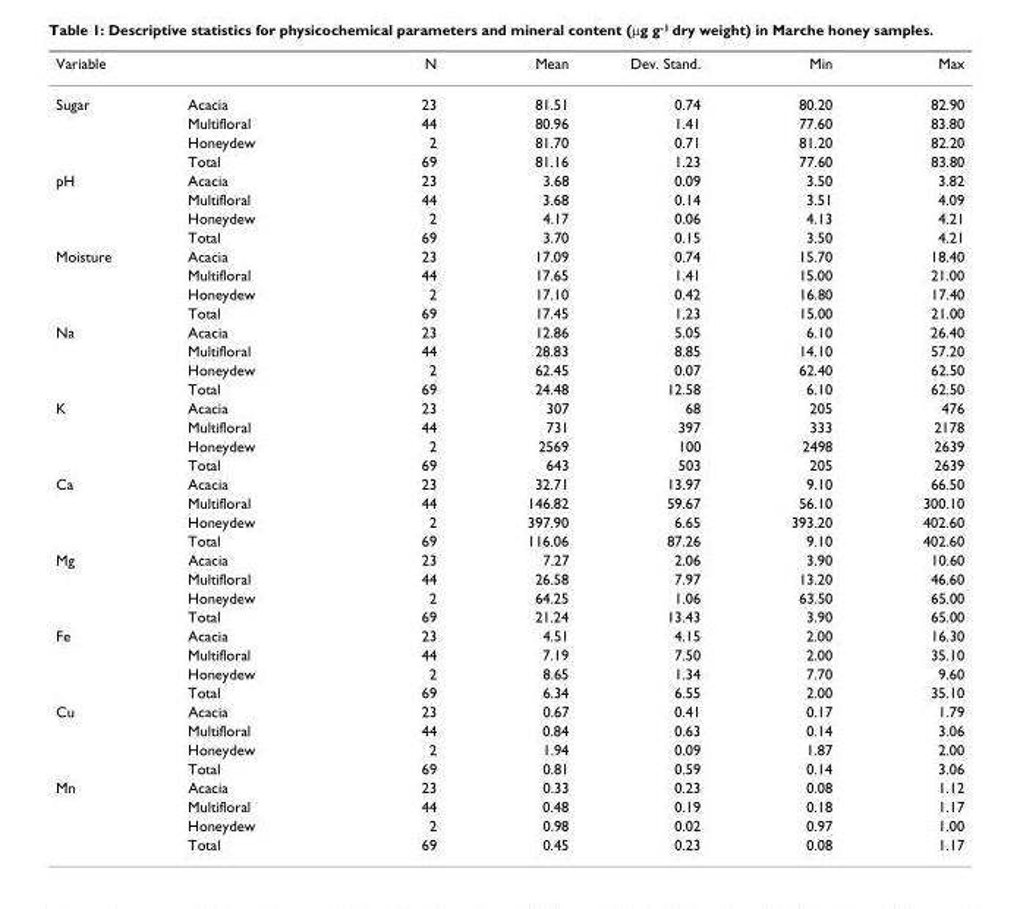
<table><thead><tr><td>Variable</td><td></td><td>N</td><td>Mean</td><td>Dev. Stand.</td><td>Min</td><td>Max</td></tr></thead><tbody><tr><td rowspan="4">Sugar</td><td>Acacia</td><td>23</td><td>81.51</td><td>0.74</td><td>80.20</td><td>82.90</td></tr><tr><td>Multifloral</td><td>44</td><td>80.96</td><td>1.41</td><td>77.60</td><td>83.80</td></tr><tr><td>Honeydew</td><td>2</td><td>81.70</td><td>0.71</td><td>81.20</td><td>82.20</td></tr><tr><td>Total</td><td>69</td><td>81.16</td><td>1.23</td><td>77.60</td><td>83.80</td></tr><tr><td rowspan="4">pH</td><td>Acacia</td><td>23</td><td>3.68</td><td>0.09</td><td>3.50</td><td>3.82</td></tr><tr><td>Multifloral</td><td>44</td><td>3.68</td><td>0.14</td><td>3.51</td><td>4.09</td></tr><tr><td>Honeydew</td><td>2</td><td>4.17</td><td>0.06</td><td>4.13</td><td>4.21</td></tr><tr><td>Total</td><td>69</td><td>3.70</td><td>0.15</td><td>3.50</td><td>4.21</td></tr><tr><td rowspan="4">Moisture</td><td>Acacia</td><td>23</td><td>17.09</td><td>0.74</td><td>15.70</td><td>18.40</td></tr><tr><td>Multifloral</td><td>44</td><td>17.65</td><td>1.41</td><td>15.00</td><td>21.00</td></tr><tr><td>Honeydew</td><td>2</td><td>17.10</td><td>0.42</td><td>16.80</td><td>17.40</td></tr><tr><td>Total</td><td>69</td><td>17.45</td><td>1.23</td><td>15.00</td><td>21.00</td></tr><tr><td rowspan="4">Na</td><td>Acacia</td><td>23</td><td>12.86</td><td>5.05</td><td>6.10</td><td>26.40</td></tr><tr><td>Multifloral</td><td>44</td><td>28.83</td><td>8.85</td><td>14.10</td><td>57.20</td></tr><tr><td>Honeydew</td><td>2</td><td>62.45</td><td>0.07</td><td>62.40</td><td>62.50</td></tr><tr><td>Total</td><td>69</td><td>24.48</td><td>12.58</td><td>6.10</td><td>62.50</td></tr><tr><td rowspan="4">K</td><td>Acacia</td><td>23</td><td>307</td><td>68</td><td>205</td><td>476</td></tr><tr><td>Multifloral</td><td>44</td><td>731</td><td>397</td><td>333</td><td>2178</td></tr><tr><td>Honeydew</td><td>2</td><td>2569</td><td>100</td><td>2498</td><td>2639</td></tr><tr><td>Total</td><td>69</td><td>643</td><td>503</td><td>205</td><td>2639</td></tr><tr><td rowspan="4">Ca</td><td>Acacia</td><td>23</td><td>32.71</td><td>13.97</td><td>9.10</td><td>66.50</td></tr><tr><td>Multifloral</td><td>44</td><td>146.82</td><td>59.67</td><td>56.10</td><td>300.10</td></tr><tr><td>Honeydew</td><td>2</td><td>397.90</td><td>6.65</td><td>393.20</td><td>402.60</td></tr><tr><td>Total</td><td>69</td><td>116.06</td><td>87.26</td><td>9.10</td><td>402.60</td></tr><tr><td rowspan="4">Mg</td><td>Acacia</td><td>23</td><td>7.27</td><td>2.06</td><td>3.90</td><td>10.60</td></tr><tr><td>Multifloral</td><td>44</td><td>26.58</td><td>7.97</td><td>13.20</td><td>46.60</td></tr><tr><td>Honeydew</td><td>2</td><td>64.25</td><td>1.06</td><td>63.50</td><td>65.00</td></tr><tr><td>Total</td><td>69</td><td>21.24</td><td>13.43</td><td>3.90</td><td>65.00</td></tr><tr><td rowspan="4">Fe</td><td>Acacia</td><td>23</td><td>4.51</td><td>4.15</td><td>2.00</td><td>16.30</td></tr><tr><td>Multifloral</td><td>44</td><td>7.19</td><td>7.50</td><td>2.00</td><td>35.10</td></tr><tr><td>Honeydew</td><td>2</td><td>8.65</td><td>1.34</td><td>7.70</td><td>9.60</td></tr><tr><td>Total</td><td>69</td><td>6.34</td><td>6.55</td><td>2.00</td><td>35.10</td></tr><tr><td rowspan="4">Cu</td><td>Acacia</td><td>23</td><td>0.67</td><td>0.41</td><td>0.17</td><td>1.79</td></tr><tr><td>Multifloral</td><td>44</td><td>0.84</td><td>0.63</td><td>0.14</td><td>3.06</td></tr><tr><td>Honeydew</td><td>2</td><td>1.94</td><td>0.09</td><td>1.87</td><td>2.00</td></tr><tr><td>Total</td><td>69</td><td>0.81</td><td>0.59</td><td>0.14</td><td>3.06</td></tr><tr><td rowspan="4">Mn</td><td>Acacia</td><td>23</td><td>0.33</td><td>0.23</td><td>0.08</td><td>1.12</td></tr><tr><td>Multifloral</td><td>44</td><td>0.48</td><td>0.19</td><td>0.18</td><td>1.17</td></tr><tr><td>Honeydew</td><td>2</td><td>0.98</td><td>0.02</td><td>0.97</td><td>1.00</td></tr><tr><td>Total</td><td>69</td><td>0.45</td><td>0.23</td><td>0.08</td><td>1.17</td></tr></tbody></table>